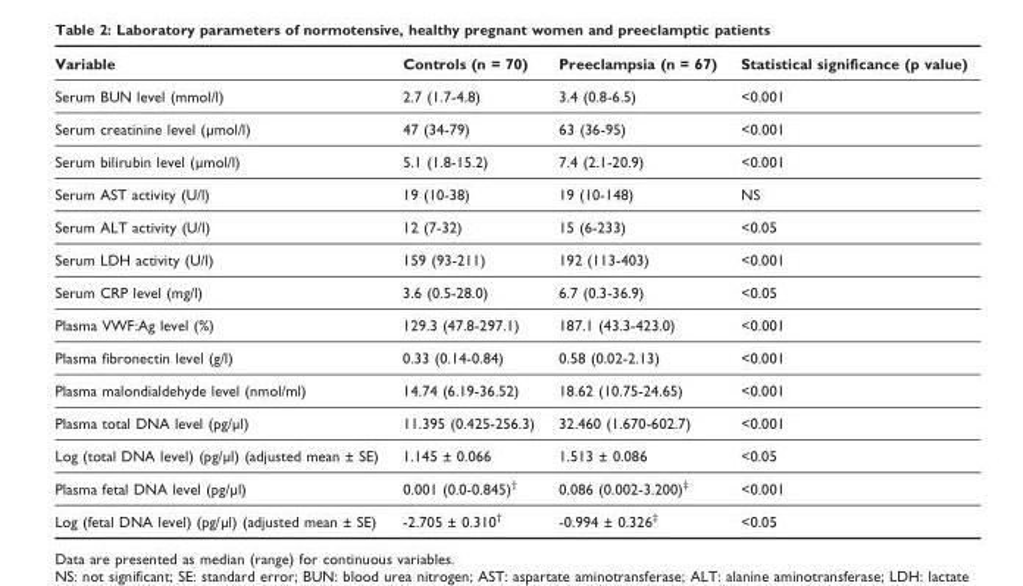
<table><thead><tr><td>Variable</td><td>Controls (n = 70)</td><td>Preeclampsia (n = 67)</td><td>Statistical significance (p value)</td></tr></thead><tbody><tr><td>Serum BUN level (mmol/l)</td><td>2.7 (1.7-4.8)</td><td>3.4 (0.8-6.5)</td><td>&lt;0.001</td></tr><tr><td>Serum creatinine level (μmol/l)</td><td>47 (34-79)</td><td>63 (36-95)</td><td>&lt;0.001</td></tr><tr><td>Serum bilirubin level (μmol/l)</td><td>5.1 (1.8-15.2)</td><td>7.4 (2.1-20.9)</td><td>&lt;0.001</td></tr><tr><td>Serum AST activity (U/l)</td><td>19 (10-38)</td><td>19 (10-148)</td><td>NS</td></tr><tr><td>Serum ALT activity (U/l)</td><td>12 (7-32)</td><td>15 (6-233)</td><td>&lt;0.05</td></tr><tr><td>Serum LDH activity (U/l)</td><td>159 (93-211)</td><td>192 (113-403)</td><td>&lt;0.001</td></tr><tr><td>Serum CRP level (mg/l)</td><td>3.6 (0.5-28.0)</td><td>6.7 (0.3-36.9)</td><td>&lt;0.05</td></tr><tr><td>Plasma VWF:Ag level (%)</td><td>129.3 (47.8-297.1)</td><td>187.1 (43.3-423.0)</td><td>&lt;0.001</td></tr><tr><td>Plasma fibronectin level (g/l)</td><td>0.33 (0.14-0.84)</td><td>0.58 (0.02-2.13)</td><td>&lt;0.001</td></tr><tr><td>Plasma malondialdehyde level (nmol/ml)</td><td>14.74 (6.19-36.52)</td><td>18.62 (10.75-24.65)</td><td>&lt;0.001</td></tr><tr><td>Plasma total DNA level (pg/μl)</td><td>11.395 (0.425-256.3)</td><td>32.460 (1.670-602.7)</td><td>&lt;0.001</td></tr><tr><td>Log (total DNA level) (pg/μl) (adjusted mean ± SE)</td><td>1.145 ± 0.066</td><td>1.513 ± 0.086</td><td>&lt;0.05</td></tr><tr><td>Plasma fetal DNA level (pg/μl)</td><td>0.001 (0.0-0.845)<sup>†</sup></td><td>0.086 (0.002-3.200)<sup>‡</sup></td><td>&lt;0.001</td></tr><tr><td>Log (fetal DNA level) (pg/μl) (adjusted mean ± SE)</td><td>-2.705 ± 0.310<sup>†</sup></td><td>-0.994 ± 0.326<sup>‡</sup></td><td>&lt;0.05</td></tr></tbody></table>